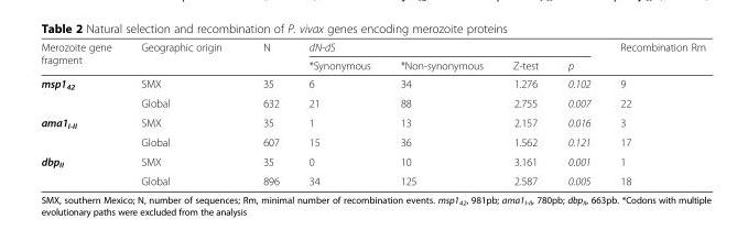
<table><thead><tr><td rowspan="2">Merozoite gene fragment</td><td rowspan="2">Geographic origin</td><td rowspan="2">N</td><td colspan="4">dN-dS</td><td rowspan="2">Recombination Rm</td></tr><tr><td>*Synonymous</td><td>*Non-synonymous</td><td>Z-test</td><td>p</td></tr></thead><tbody><tr><td rowspan="2">msp1<sub>42</sub></td><td>SMX</td><td>35</td><td>6</td><td>34</td><td>1.276</td><td>0.102</td><td>9</td></tr><tr><td>Global</td><td>632</td><td>21</td><td>88</td><td>2.755</td><td>0.007</td><td>22</td></tr><tr><td rowspan="2">ama1<sub>I-II</sub></td><td>SMX</td><td>35</td><td>1</td><td>13</td><td>2.157</td><td>0.016</td><td>3</td></tr><tr><td>Global</td><td>607</td><td>15</td><td>36</td><td>1.562</td><td>0.121</td><td>17</td></tr><tr><td rowspan="2">dbp<sub>II</sub></td><td>SMX</td><td>35</td><td>0</td><td>10</td><td>3.161</td><td>0.001</td><td>1</td></tr><tr><td>Global</td><td>896</td><td>34</td><td>125</td><td>2.587</td><td>0.005</td><td>18</td></tr></tbody></table>